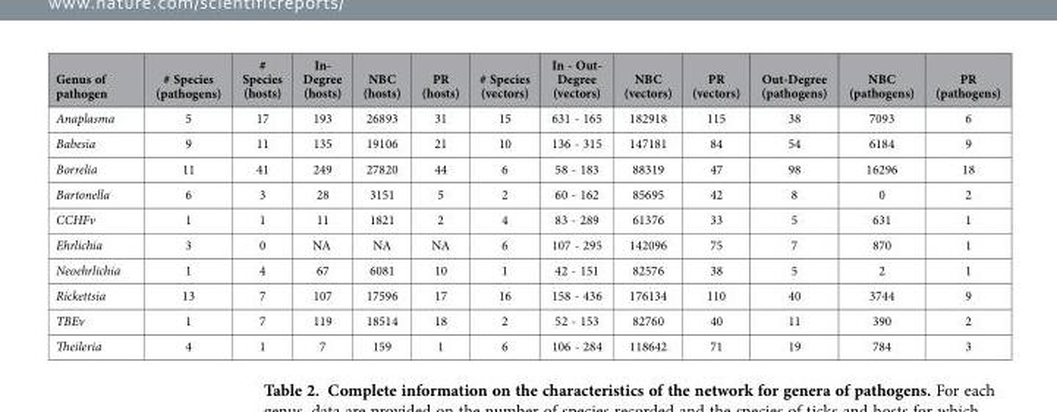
<table><thead><tr><td>Genus of pathogen</td><td># Species (pathogens)</td><td># Species (hosts)</td><td>In- Degree (hosts)</td><td>NBC (hosts)</td><td>PR (hosts)</td><td># Species (vectors)</td><td>In - Out- Degree (vectors)</td><td>NBC (vectors)</td><td>PR (vectors)</td><td>Out-Degree (pathogens)</td><td>NBC (pathogens)</td><td>PR (pathogens)</td></tr></thead><tbody><tr><td>Anaplasma</td><td>5</td><td>17</td><td>193</td><td>26893</td><td>31</td><td>15</td><td>631 - 165</td><td>182918</td><td>115</td><td>38</td><td>7093</td><td>6</td></tr><tr><td>Babesia</td><td>9</td><td>11</td><td>135</td><td>19106</td><td>21</td><td>10</td><td>136 - 315</td><td>147181</td><td>84</td><td>54</td><td>6184</td><td>9</td></tr><tr><td>Borrelia</td><td>11</td><td>41</td><td>249</td><td>27820</td><td>44</td><td>6</td><td>58 - 183</td><td>88319</td><td>47</td><td>98</td><td>16296</td><td>18</td></tr><tr><td>Bartonella</td><td>6</td><td>3</td><td>28</td><td>3151</td><td>5</td><td>2</td><td>60 - 162</td><td>85695</td><td>42</td><td>8</td><td>0</td><td>2</td></tr><tr><td>CCHFv</td><td>1</td><td>1</td><td>11</td><td>1821</td><td>2</td><td>4</td><td>83 - 289</td><td>61376</td><td>33</td><td>5</td><td>631</td><td>1</td></tr><tr><td>Ehrlichia</td><td>3</td><td>0</td><td>NA</td><td>NA</td><td>NA</td><td>6</td><td>107 - 295</td><td>142096</td><td>75</td><td>7</td><td>870</td><td>1</td></tr><tr><td>Neoehrlichia</td><td>1</td><td>4</td><td>67</td><td>6081</td><td>10</td><td>1</td><td>42 - 151</td><td>82576</td><td>38</td><td>5</td><td>2</td><td>1</td></tr><tr><td>Rickettsia</td><td>13</td><td>7</td><td>107</td><td>17596</td><td>17</td><td>16</td><td>158 - 436</td><td>176134</td><td>110</td><td>40</td><td>3744</td><td>9</td></tr><tr><td>TBEv</td><td>1</td><td>7</td><td>119</td><td>18514</td><td>18</td><td>2</td><td>52 - 153</td><td>82760</td><td>40</td><td>11</td><td>390</td><td>2</td></tr><tr><td>Theileria</td><td>4</td><td>1</td><td>7</td><td>159</td><td>1</td><td>6</td><td>106 - 284</td><td>118642</td><td>71</td><td>19</td><td>784</td><td>3</td></tr></tbody></table>